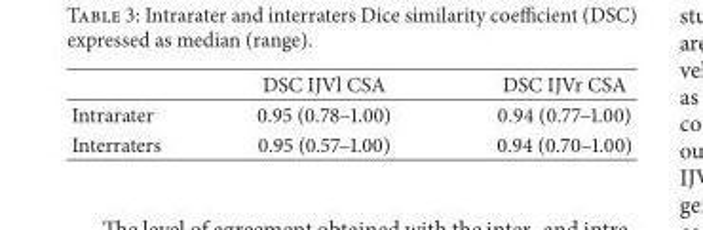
<table><thead><tr><td></td><td>DSC IJVl CSA</td><td>DSC IJVr CSA</td></tr></thead><tbody><tr><td>Intrarater</td><td>0.95 (0.78–1.00)</td><td>0.94 (0.77–1.00)</td></tr><tr><td>Interraters</td><td>0.95 (0.57–1.00)</td><td>0.94 (0.70–1.00)</td></tr></tbody></table>